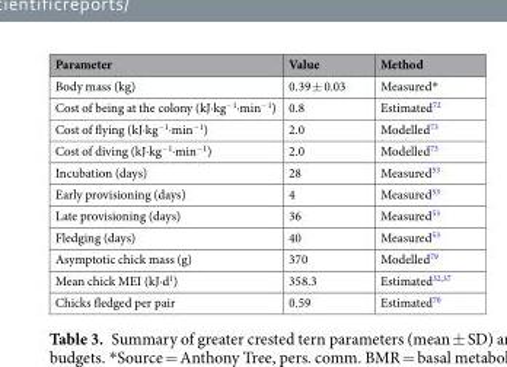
<table><thead><tr><td>Parameter</td><td>Value</td><td>Method</td></tr></thead><tbody><tr><td>Body mass (kg)</td><td>0.39 ± 0.03</td><td>Measured*</td></tr><tr><td>Cost of being at the colony (kJ·kg<sup>−1</sup>·min<sup>−1</sup>)</td><td>0.8</td><td>Estimated<sup>72</sup></td></tr><tr><td>Cost of flying (kJ·kg<sup>−1</sup>·min<sup>−1</sup>)</td><td>2.0</td><td>Modelled<sup>73</sup></td></tr><tr><td>Cost of diving (kJ·kg<sup>−1</sup>·min<sup>−1</sup>)</td><td>2.0</td><td>Modelled<sup>73</sup></td></tr><tr><td>Incubation (days)</td><td>28</td><td>Measured<sup>53</sup></td></tr><tr><td>Early provisioning (days)</td><td>4</td><td>Measured<sup>53</sup></td></tr><tr><td>Late provisioning (days)</td><td>36</td><td>Measured<sup>53</sup></td></tr><tr><td>Fledging (days)</td><td>40</td><td>Measured<sup>53</sup></td></tr><tr><td>Asymptotic chick mass (g)</td><td>370</td><td>Modelled<sup>79</sup></td></tr><tr><td>Mean chick MEI (kJ·d<sup>1</sup>)</td><td>358.3</td><td>Estimated<sup>32,37</sup></td></tr><tr><td>Chicks fledged per pair</td><td>0.59</td><td>Estimated<sup>70</sup></td></tr></tbody></table>